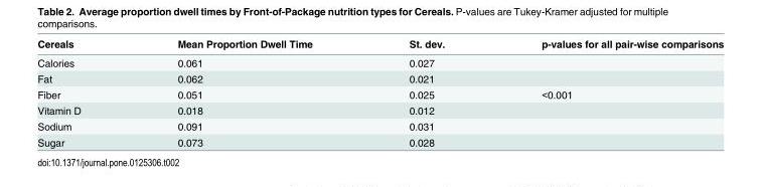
<table><thead><tr><td>Cereals</td><td>Mean Proportion Dwell Time</td><td>St. dev.</td><td>p-values for all pair-wise comparisons</td></tr></thead><tbody><tr><td>Calories</td><td>0.061</td><td>0.027</td><td></td></tr><tr><td>Fat</td><td>0.062</td><td>0.021</td><td></td></tr><tr><td>Fiber</td><td>0.051</td><td>0.025</td><td>&lt;0.001</td></tr><tr><td>Vitamin D</td><td>0.018</td><td>0.012</td><td></td></tr><tr><td>Sodium</td><td>0.091</td><td>0.031</td><td></td></tr><tr><td>Sugar</td><td>0.073</td><td>0.028</td><td></td></tr></tbody></table>